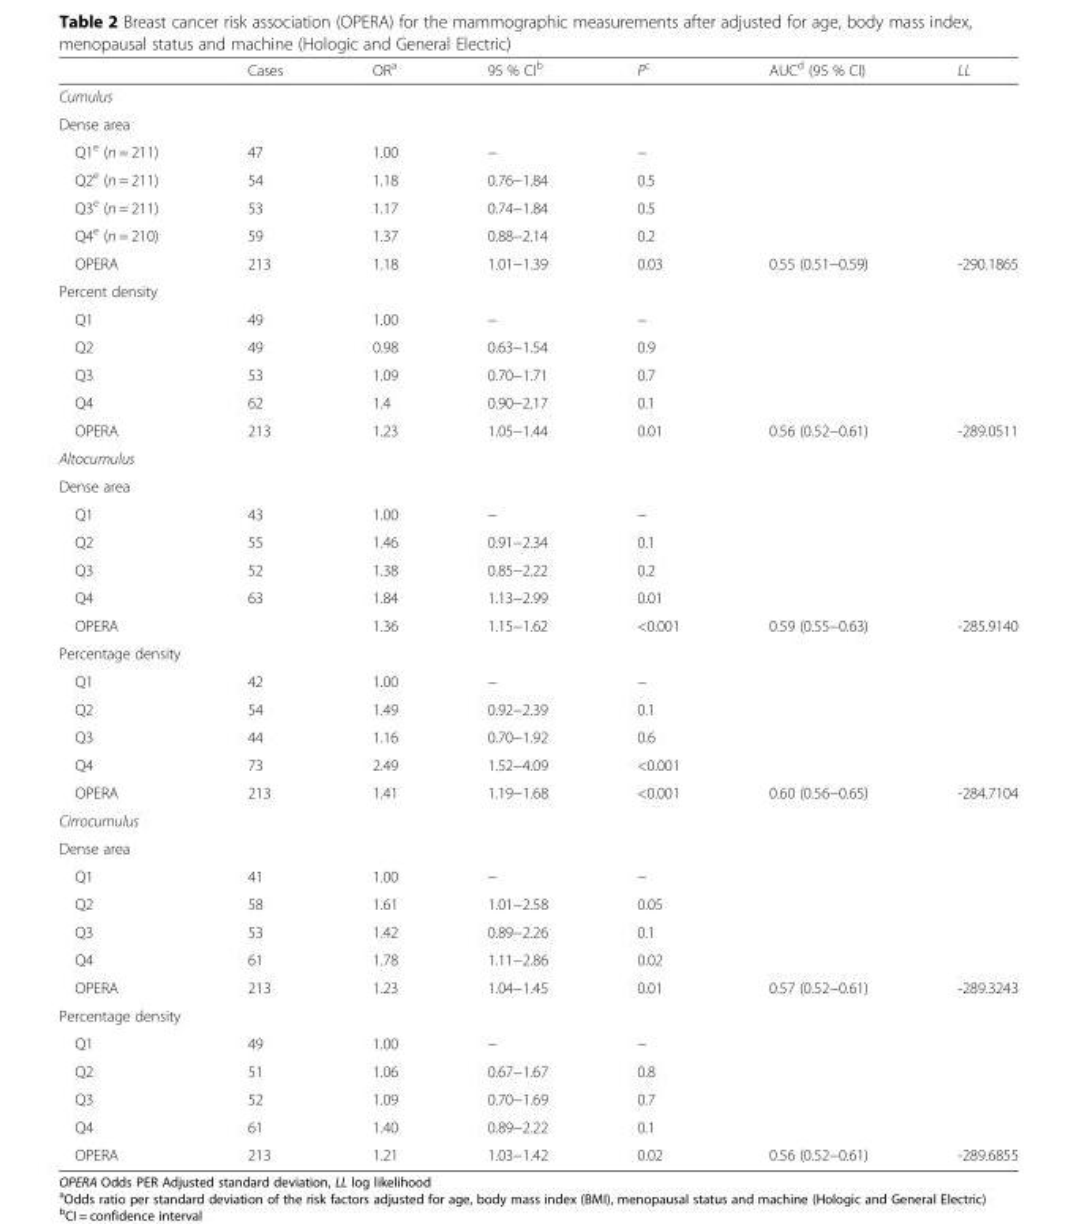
<table><thead><tr><td></td><td>Cases</td><td>OR<sup>a</sup></td><td>95 % CI<sup>b</sup></td><td>P<sup>c</sup></td><td>AUC<sup>d</sup> (95 % CI)</td><td>LL</td></tr></thead><tbody><tr><td colspan="7">Cumulus</td></tr><tr><td colspan="7">Dense area</td></tr><tr><td>Q1<sup>e</sup> (n = 211)</td><td>47</td><td>1.00</td><td>−</td><td>−</td><td></td><td></td></tr><tr><td>Q2<sup>e</sup> (n = 211)</td><td>54</td><td>1.18</td><td>0.76−1.84</td><td>0.5</td><td></td><td></td></tr><tr><td>Q3<sup>e</sup> (n = 211)</td><td>53</td><td>1.17</td><td>0.74−1.84</td><td>0.5</td><td></td><td></td></tr><tr><td>Q4<sup>e</sup> (n = 210)</td><td>59</td><td>1.37</td><td>0.88−2.14</td><td>0.2</td><td></td><td></td></tr><tr><td>OPERA</td><td>213</td><td>1.18</td><td>1.01−1.39</td><td>0.03</td><td>0.55 (0.51−0.59)</td><td>-290.1865</td></tr><tr><td colspan="7">Percent density</td></tr><tr><td>Q1</td><td>49</td><td>1.00</td><td>−</td><td>−</td><td></td><td></td></tr><tr><td>Q2</td><td>49</td><td>0.98</td><td>0.63−1.54</td><td>0.9</td><td></td><td></td></tr><tr><td>Q3</td><td>53</td><td>1.09</td><td>0.70−1.71</td><td>0.7</td><td></td><td></td></tr><tr><td>Q4</td><td>62</td><td>1.4</td><td>0.90−2.17</td><td>0.1</td><td></td><td></td></tr><tr><td>OPERA</td><td>213</td><td>1.23</td><td>1.05−1.44</td><td>0.01</td><td>0.56 (0.52−0.61)</td><td>-289.0511</td></tr><tr><td colspan="7">Altocumulus</td></tr><tr><td colspan="7">Dense area</td></tr><tr><td>Q1</td><td>43</td><td>1.00</td><td>−</td><td>−</td><td></td><td></td></tr><tr><td>Q2</td><td>55</td><td>1.46</td><td>0.91−2.34</td><td>0.1</td><td></td><td></td></tr><tr><td>Q3</td><td>52</td><td>1.38</td><td>0.85−2.22</td><td>0.2</td><td></td><td></td></tr><tr><td>Q4</td><td>63</td><td>1.84</td><td>1.13−2.99</td><td>0.01</td><td></td><td></td></tr><tr><td>OPERA</td><td></td><td>1.36</td><td>1.15−1.62</td><td>&lt;0.001</td><td>0.59 (0.55−0.63)</td><td>-285.9140</td></tr><tr><td colspan="7">Percentage density</td></tr><tr><td>Q1</td><td>42</td><td>1.00</td><td>−</td><td>−</td><td></td><td></td></tr><tr><td>Q2</td><td>54</td><td>1.49</td><td>0.92−2.39</td><td>0.1</td><td></td><td></td></tr><tr><td>Q3</td><td>44</td><td>1.16</td><td>0.70−1.92</td><td>0.6</td><td></td><td></td></tr><tr><td>Q4</td><td>73</td><td>2.49</td><td>1.52−4.09</td><td>&lt;0.001</td><td></td><td></td></tr><tr><td>OPERA</td><td>213</td><td>1.41</td><td>1.19−1.68</td><td>&lt;0.001</td><td>0.60 (0.56−0.65)</td><td>-284.7104</td></tr><tr><td colspan="7">Cirrocumulus</td></tr><tr><td colspan="7">Dense area</td></tr><tr><td>Q1</td><td>41</td><td>1.00</td><td>−</td><td>−</td><td></td><td></td></tr><tr><td>Q2</td><td>58</td><td>1.61</td><td>1.01−2.58</td><td>0.05</td><td></td><td></td></tr><tr><td>Q3</td><td>53</td><td>1.42</td><td>0.89−2.26</td><td>0.1</td><td></td><td></td></tr><tr><td>Q4</td><td>61</td><td>1.78</td><td>1.11−2.86</td><td>0.02</td><td></td><td></td></tr><tr><td>OPERA</td><td>213</td><td>1.23</td><td>1.04−1.45</td><td>0.01</td><td>0.57 (0.52−0.61)</td><td>-289.3243</td></tr><tr><td colspan="7">Percentage density</td></tr><tr><td>Q1</td><td>49</td><td>1.00</td><td>−</td><td>−</td><td></td><td></td></tr><tr><td>Q2</td><td>51</td><td>1.06</td><td>0.67−1.67</td><td>0.8</td><td></td><td></td></tr><tr><td>Q3</td><td>52</td><td>1.09</td><td>0.70−1.69</td><td>0.7</td><td></td><td></td></tr><tr><td>Q4</td><td>61</td><td>1.40</td><td>0.89−2.22</td><td>0.1</td><td></td><td></td></tr><tr><td>OPERA</td><td>213</td><td>1.21</td><td>1.03−1.42</td><td>0.02</td><td>0.56 (0.52−0.61)</td><td>-289.6855</td></tr></tbody></table>